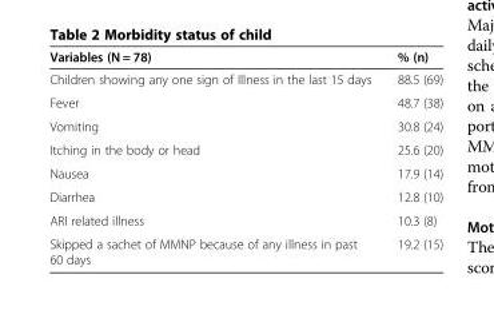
<table><thead><tr><td>Variables (N = 78)</td><td>% (n)</td></tr></thead><tbody><tr><td>Children showing any one sign of Illness in the last 15 days</td><td>88.5 (69)</td></tr><tr><td>Fever</td><td>48.7 (38)</td></tr><tr><td>Vomiting</td><td>30.8 (24)</td></tr><tr><td>Itching in the body or head</td><td>25.6 (20)</td></tr><tr><td>Nausea</td><td>17.9 (14)</td></tr><tr><td>Diarrhea</td><td>12.8 (10)</td></tr><tr><td>ARI related illness</td><td>10.3 (8)</td></tr><tr><td>Skipped a sachet of MMNP because of any illness in past 60 days</td><td>19.2 (15)</td></tr></tbody></table>